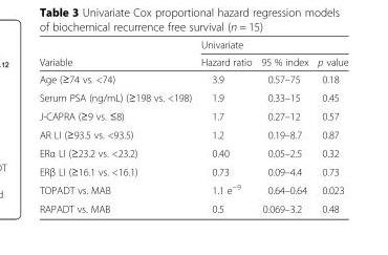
<table><thead><tr><td rowspan="2">Variable</td><td colspan="3">Univariate</td></tr><tr><td>Hazard ratio</td><td>95 % index</td><td>p value</td></tr></thead><tbody><tr><td>Age (≥74 vs. &lt;74)</td><td>3.9</td><td>0.57–75</td><td>0.18</td></tr><tr><td>Serum PSA (ng/mL) (≥198 vs. &lt;198)</td><td>1.9</td><td>0.33–15</td><td>0.45</td></tr><tr><td>J-CAPRA (≥9 vs. ≤8)</td><td>1.7</td><td>0.27–12</td><td>0.57</td></tr><tr><td>AR LI (≥93.5 vs. &lt;93.5)</td><td>1.2</td><td>0.19–8.7</td><td>0.87</td></tr><tr><td>ERα LI (≥23.2 vs. &lt;23.2)</td><td>0.40</td><td>0.05–2.5</td><td>0.32</td></tr><tr><td>ERβ LI (≥16.1 vs. &lt;16.1)</td><td>0.73</td><td>0.09–4.4</td><td>0.73</td></tr><tr><td>TOPADT vs. MAB</td><td>1.1 e<sup>−9</sup></td><td>0.64–0.64</td><td>0.023</td></tr><tr><td>RAPADT vs. MAB</td><td>0.5</td><td>0.069–3.2</td><td>0.48</td></tr></tbody></table>